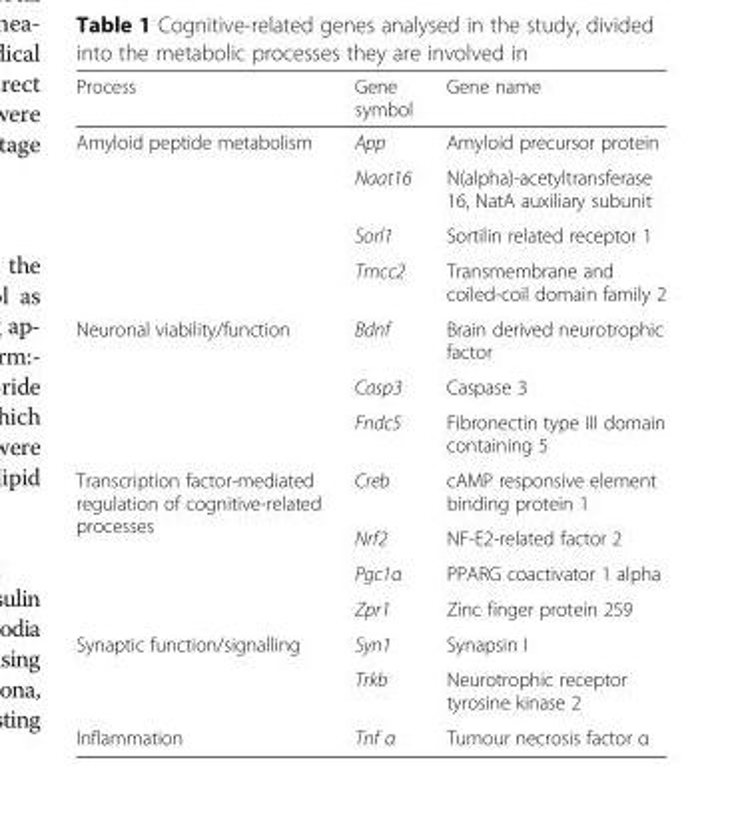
<table><thead><tr><td>Process</td><td>Gene symbol</td><td>Gene name</td></tr></thead><tbody><tr><td rowspan="4">Amyloid peptide metabolism</td><td>App</td><td>Amyloid precursor protein</td></tr><tr><td>Naat16</td><td>N(alpha)-acetyltransferase 16, NatA auxiliary subunit</td></tr><tr><td>Sorl1</td><td>Sortilin related receptor 1</td></tr><tr><td>Tmcc2</td><td>Transmembrane and coiled-coil domain family 2</td></tr><tr><td rowspan="3">Neuronal viability/function</td><td>Bdnf</td><td>Brain derived neurotrophic factor</td></tr><tr><td>Casp3</td><td>Caspase 3</td></tr><tr><td>Fndc5</td><td>Fibronectin type III domain containing 5</td></tr><tr><td rowspan="4">Transcription factor-mediated regulation of cognitive-related processes</td><td>Creb</td><td>cAMP responsive element binding protein 1</td></tr><tr><td>Nrf2</td><td>NF-E2-related factor 2</td></tr><tr><td>Pgc1α</td><td>PPARG coactivator 1 alpha</td></tr><tr><td>Zpr1</td><td>Zinc finger protein 259</td></tr><tr><td rowspan="2">Synaptic function/signalling</td><td>Syn1</td><td>Synapsin I</td></tr><tr><td>Trkb</td><td>Neurotrophic receptor tyrosine kinase 2</td></tr><tr><td>Inflammation</td><td>Tnf α</td><td>Tumour necrosis factor α</td></tr></tbody></table>